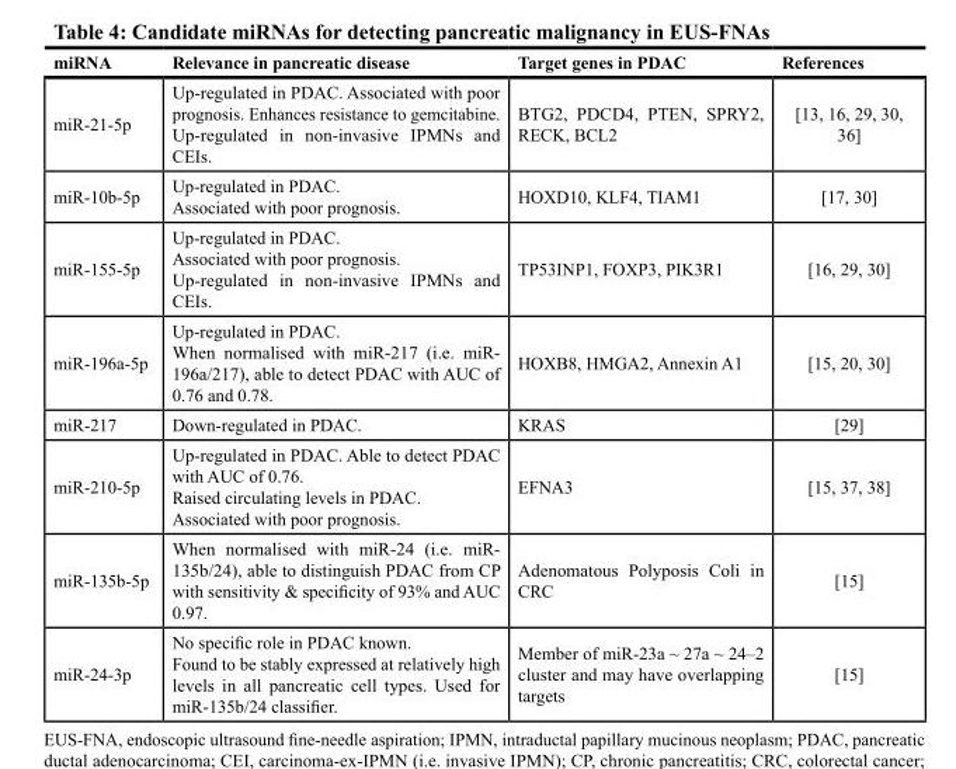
<table><thead><tr><td>miRNA</td><td>Relevance in pancreatic disease</td><td>Target genes in PDAC</td><td>References</td></tr></thead><tbody><tr><td>miR-21-5p</td><td>Up-regulated in PDAC. Associated with poor prognosis. Enhances resistance to gemcitabine. Up-regulated in non-invasive IPMNs and CEIs.</td><td>BTG2, PDCD4, PTEN, SPRY2, RECK, BCL2</td><td>[13, 16, 29, 30, 36]</td></tr><tr><td>miR-10b-5p</td><td>Up-regulated in PDAC. Associated with poor prognosis.</td><td>HOXD10, KLF4, TIAM1</td><td>[17, 30]</td></tr><tr><td>miR-155-5p</td><td>Up-regulated in PDAC. Associated with poor prognosis. Up-regulated in non-invasive IPMNs and CEIs.</td><td>TP53INP1, FOXP3, PIK3R1</td><td>[16, 29, 30]</td></tr><tr><td>miR-196a-5p</td><td>Up-regulated in PDAC. When normalised with miR-217 (i.e. miR- 196a/217), able to detect PDAC with AUC of 0.76 and 0.78.</td><td>HOXB8, HMGA2, Annexin A1</td><td>[15, 20, 30]</td></tr><tr><td>miR-217</td><td>Down-regulated in PDAC.</td><td>KRAS</td><td>[29]</td></tr><tr><td>miR-210-5p</td><td>Up-regulated in PDAC. Able to detect PDAC with AUC of 0.76. Raised circulating levels in PDAC. Associated with poor prognosis.</td><td>EFNA3</td><td>[15, 37, 38]</td></tr><tr><td>miR-135b-5p</td><td>When normalised with miR-24 (i.e. miR- 135b/24), able to distinguish PDAC from CP with sensitivity &amp; specificity of 93% and AUC 0.97.</td><td>Adenomatous Polyposis Coli in CRC</td><td>[15]</td></tr><tr><td>miR-24-3p</td><td>No specific role in PDAC known. Found to be stably expressed at relatively high levels in all pancreatic cell types. Used for miR-135b/24 classifier.</td><td>Member of miR-23a ~ 27a ~ 24–2 cluster and may have overlapping targets</td><td>[15]</td></tr></tbody></table>